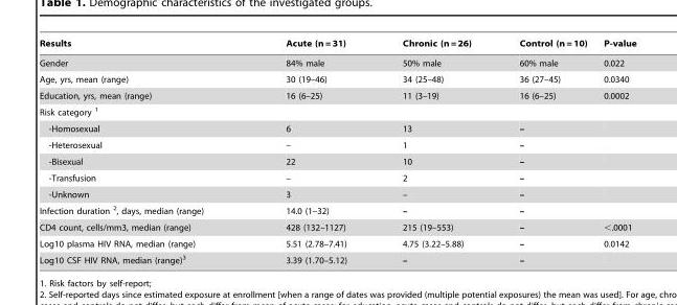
<table><thead><tr><td>Results</td><td>Acute (n = 31)</td><td>Chronic (n = 26)</td><td>Control (n = 10)</td><td>P-value</td></tr></thead><tbody><tr><td>Gender</td><td>84% male</td><td>50% male</td><td>60% male</td><td>0.022</td></tr><tr><td>Age, yrs, mean (range)</td><td>30 (19–46)</td><td>34 (25–48)</td><td>36 (27–45)</td><td>0.0340</td></tr><tr><td>Education, yrs, mean (range)</td><td>16 (6–25)</td><td>11 (3–19)</td><td>16 (6–25)</td><td>0.0002</td></tr><tr><td colspan="5">Risk category <sup>1</sup></td></tr><tr><td>-Homosexual</td><td>6</td><td>13</td><td>–</td><td></td></tr><tr><td>-Heterosexual</td><td>–</td><td>1</td><td>–</td><td></td></tr><tr><td>-Bisexual</td><td>22</td><td>10</td><td>–</td><td></td></tr><tr><td>-Transfusion</td><td>–</td><td>2</td><td>–</td><td></td></tr><tr><td>-Unknown</td><td>3</td><td>–</td><td>–</td><td></td></tr><tr><td>Infection duration <sup>2</sup>, days, median (range)</td><td>14.0 (1–32)</td><td>–</td><td>–</td><td></td></tr><tr><td>CD4 count, cells/mm3, median (range)</td><td>428 (132–1127)</td><td>215 (19–553)</td><td>–</td><td>&lt;.0001</td></tr><tr><td>Log10 plasma HIV RNA, median (range)</td><td>5.51 (2.78–7.41)</td><td>4.75 (3.22–5.88)</td><td>–</td><td>0.0142</td></tr><tr><td>Log10 CSF HIV RNA, median (range)<sup>3</sup></td><td>3.39 (1.70–5.12)</td><td>–</td><td>–</td><td></td></tr></tbody></table>